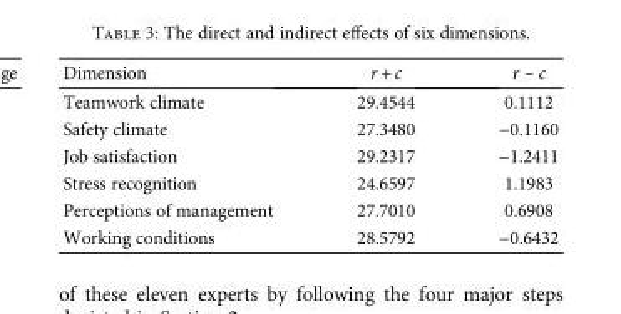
<table><thead><tr><td>Dimension</td><td>r + c</td><td>r – c</td></tr></thead><tbody><tr><td>Teamwork climate</td><td>29.4544</td><td>0.1112</td></tr><tr><td>Safety climate</td><td>27.3480</td><td>−0.1160</td></tr><tr><td>Job satisfaction</td><td>29.2317</td><td>−1.2411</td></tr><tr><td>Stress recognition</td><td>24.6597</td><td>1.1983</td></tr><tr><td>Perceptions of management</td><td>27.7010</td><td>0.6908</td></tr><tr><td>Working conditions</td><td>28.5792</td><td>−0.6432</td></tr></tbody></table>